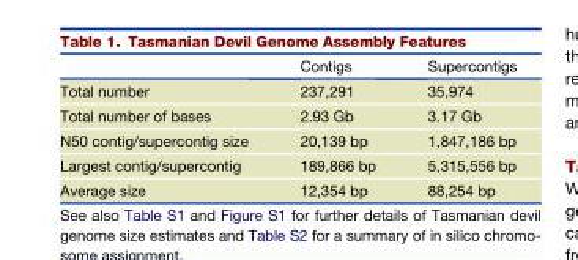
<table><thead><tr><td></td><td>Contigs</td><td>Supercontigs</td></tr></thead><tbody><tr><td>Total number</td><td>237,291</td><td>35,974</td></tr><tr><td>Total number of bases</td><td>2.93 Gb</td><td>3.17 Gb</td></tr><tr><td>N50 contig/supercontig size</td><td>20,139 bp</td><td>1,847,186 bp</td></tr><tr><td>Largest contig/supercontig</td><td>189,866 bp</td><td>5,315,556 bp</td></tr><tr><td>Average size</td><td>12,354 bp</td><td>88,254 bp</td></tr></tbody></table>